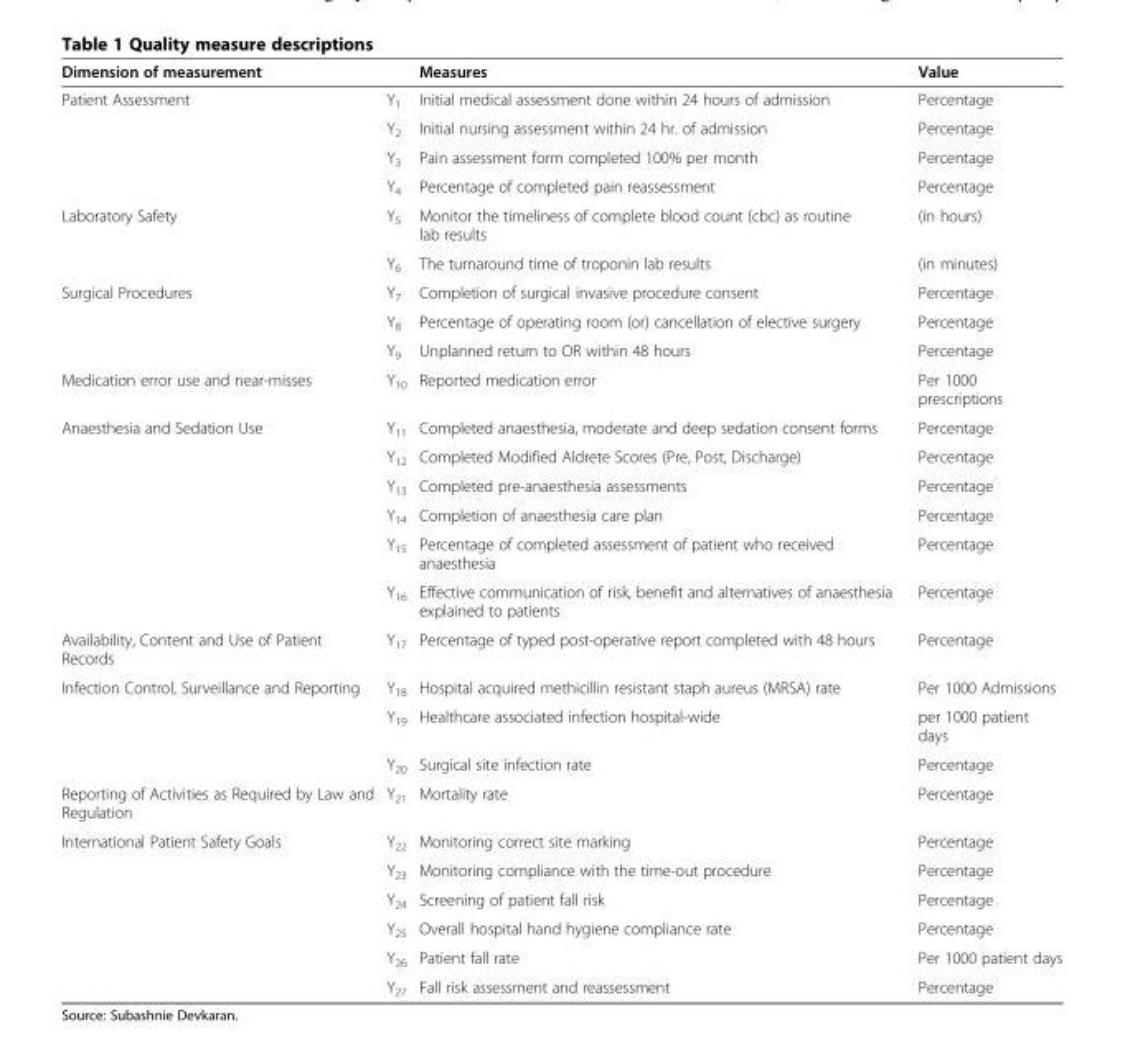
<table><thead><tr><td>Dimension of measurement</td><td></td><td>Measures</td><td>Value</td></tr></thead><tbody><tr><td rowspan="4">Patient Assessment</td><td>Y<sub>1</sub></td><td>Initial medical assessment done within 24 hours of admission</td><td>Percentage</td></tr><tr><td>Y<sub>2</sub></td><td>Initial nursing assessment within 24 hr. of admission</td><td>Percentage</td></tr><tr><td>Y<sub>3</sub></td><td>Pain assessment form completed 100% per month</td><td>Percentage</td></tr><tr><td>Y<sub>4</sub></td><td>Percentage of completed pain reassessment</td><td>Percentage</td></tr><tr><td rowspan="2">Laboratory Safety</td><td>Y<sub>5</sub></td><td>Monitor the timeliness of complete blood count (cbc) as routine lab results</td><td>(in hours)</td></tr><tr><td>Y<sub>6</sub></td><td>The turnaround time of troponin lab results</td><td>(in minutes)</td></tr><tr><td rowspan="3">Surgical Procedures</td><td>Y<sub>7</sub></td><td>Completion of surgical invasive procedure consent</td><td>Percentage</td></tr><tr><td>Y<sub>8</sub></td><td>Percentage of operating room (or) cancellation of elective surgery</td><td>Percentage</td></tr><tr><td>Y<sub>9</sub></td><td>Unplanned return to OR within 48 hours</td><td>Percentage</td></tr><tr><td>Medication error use and near-misses</td><td>Y<sub>10</sub></td><td>Reported medication error</td><td>Per 1000 prescriptions</td></tr><tr><td rowspan="6">Anaesthesia and Sedation Use</td><td>Y<sub>11</sub></td><td>Completed anaesthesia, moderate and deep sedation consent forms</td><td>Percentage</td></tr><tr><td>Y<sub>12</sub></td><td>Completed Modified Aldrete Scores (Pre, Post, Discharge)</td><td>Percentage</td></tr><tr><td>Y<sub>13</sub></td><td>Completed pre-anaesthesia assessments</td><td>Percentage</td></tr><tr><td>Y<sub>14</sub></td><td>Completion of anaesthesia care plan</td><td>Percentage</td></tr><tr><td>Y<sub>15</sub></td><td>Percentage of completed assessment of patient who received anaesthesia</td><td>Percentage</td></tr><tr><td>Y<sub>16</sub></td><td>Effective communication of risk, benefit and alternatives of anaesthesia explained to patients</td><td>Percentage</td></tr><tr><td>Availability, Content and Use of Patient Records</td><td>Y<sub>17</sub></td><td>Percentage of typed post-operative report completed with 48 hours</td><td>Percentage</td></tr><tr><td rowspan="3">Infection Control, Surveillance and Reporting</td><td>Y<sub>18</sub></td><td>Hospital acquired methicillin resistant staph aureus (MRSA) rate</td><td>Per 1000 Admissions</td></tr><tr><td>Y<sub>19</sub></td><td>Healthcare associated infection hospital-wide</td><td>per 1000 patient days</td></tr><tr><td>Y<sub>20</sub></td><td>Surgical site infection rate</td><td>Percentage</td></tr><tr><td>Reporting of Activities as Required by Law and Regulation</td><td>Y<sub>21</sub></td><td>Mortality rate</td><td>Percentage</td></tr><tr><td rowspan="6">International Patient Safety Goals</td><td>Y<sub>22</sub></td><td>Monitoring correct site marking</td><td>Percentage</td></tr><tr><td>Y<sub>23</sub></td><td>Monitoring compliance with the time-out procedure</td><td>Percentage</td></tr><tr><td>Y<sub>24</sub></td><td>Screening of patient fall risk</td><td>Percentage</td></tr><tr><td>Y<sub>25</sub></td><td>Overall hospital hand hygiene compliance rate</td><td>Percentage</td></tr><tr><td>Y<sub>26</sub></td><td>Patient fall rate</td><td>Per 1000 patient days</td></tr><tr><td>Y<sub>27</sub></td><td>Fall risk assessment and reassessment</td><td>Percentage</td></tr></tbody></table>